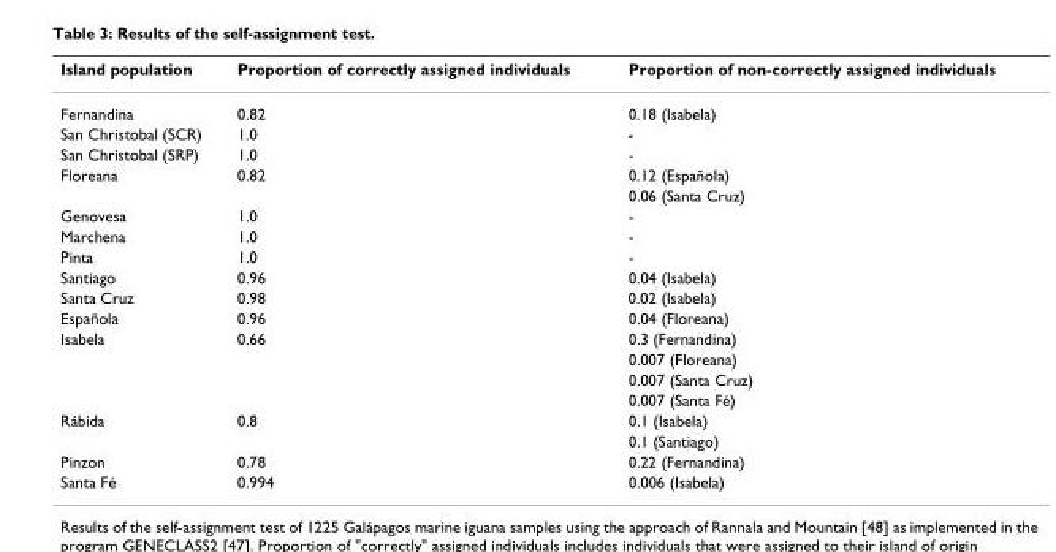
<table><thead><tr><td>Island population</td><td>Proportion of correctly assigned individuals</td><td>Proportion of non-correctly assigned individuals</td></tr></thead><tbody><tr><td>Fernandina</td><td>0.82</td><td>0.18 (Isabela)</td></tr><tr><td>San Christobal (SCR)</td><td>1.0</td><td>-</td></tr><tr><td>San Christobal (SRP)</td><td>1.0</td><td>-</td></tr><tr><td rowspan="2">Floreana</td><td>0.82</td><td>0.12 (Española)</td></tr><tr><td></td><td>0.06 (Santa Cruz)</td></tr><tr><td>Genovesa</td><td>1.0</td><td>-</td></tr><tr><td>Marchena</td><td>1.0</td><td>-</td></tr><tr><td>Pinta</td><td>1.0</td><td>-</td></tr><tr><td>Santiago</td><td>0.96</td><td>0.04 (Isabela)</td></tr><tr><td>Santa Cruz</td><td>0.98</td><td>0.02 (Isabela)</td></tr><tr><td>Española</td><td>0.96</td><td>0.04 (Floreana)</td></tr><tr><td rowspan="4">Isabela</td><td>0.66</td><td>0.3 (Fernandina)</td></tr><tr><td></td><td>0.007 (Floreana)</td></tr><tr><td></td><td>0.007 (Santa Cruz)</td></tr><tr><td></td><td>0.007 (Santa Fé)</td></tr><tr><td rowspan="2">Rábida</td><td>0.8</td><td>0.1 (Isabela)</td></tr><tr><td></td><td>0.1 (Santiago)</td></tr><tr><td>Pinzon</td><td>0.78</td><td>0.22 (Fernandina)</td></tr><tr><td>Santa Fé</td><td>0.994</td><td>0.006 (Isabela)</td></tr></tbody></table>